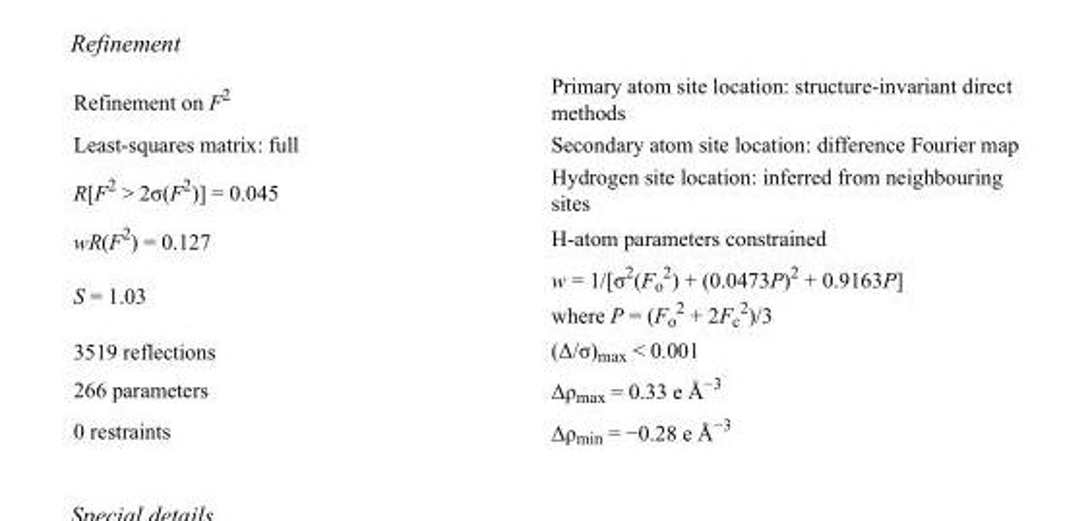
<table><tbody><tr><td>Refinement on F<sup>2</sup></td><td>Primary atom site location: structure-invariant direct methods</td></tr><tr><td>Least-squares matrix: full</td><td>Secondary atom site location: difference Fourier map</td></tr><tr><td>R[F<sup>2</sup> &gt; 2σ(F<sup>2</sup>)] = 0.045</td><td>Hydrogen site location: inferred from neighbouring sites</td></tr><tr><td>wR(F<sup>2</sup>) = 0.127</td><td>H-atom parameters constrained</td></tr><tr><td>S = 1.03</td><td>w = 1/[σ<sup>2</sup>(F<sub>o</sub> <sup>2</sup>) + (0.0473P)<sup>2</sup> + 0.9163P] where P = (F<sub>o</sub> <sup>2</sup> + 2F<sub>c</sub> <sup>2</sup>)/3</td></tr><tr><td>3519 reflections</td><td>(Δ/σ)<sub>max</sub> &lt; 0.001</td></tr><tr><td>266 parameters</td><td>Δρ<sub>max</sub> = 0.33 e Å<sup>−3</sup></td></tr><tr><td>0 restraints</td><td>Δρ<sub>min</sub> = −0.28 e Å<sup>−3</sup></td></tr></tbody></table>